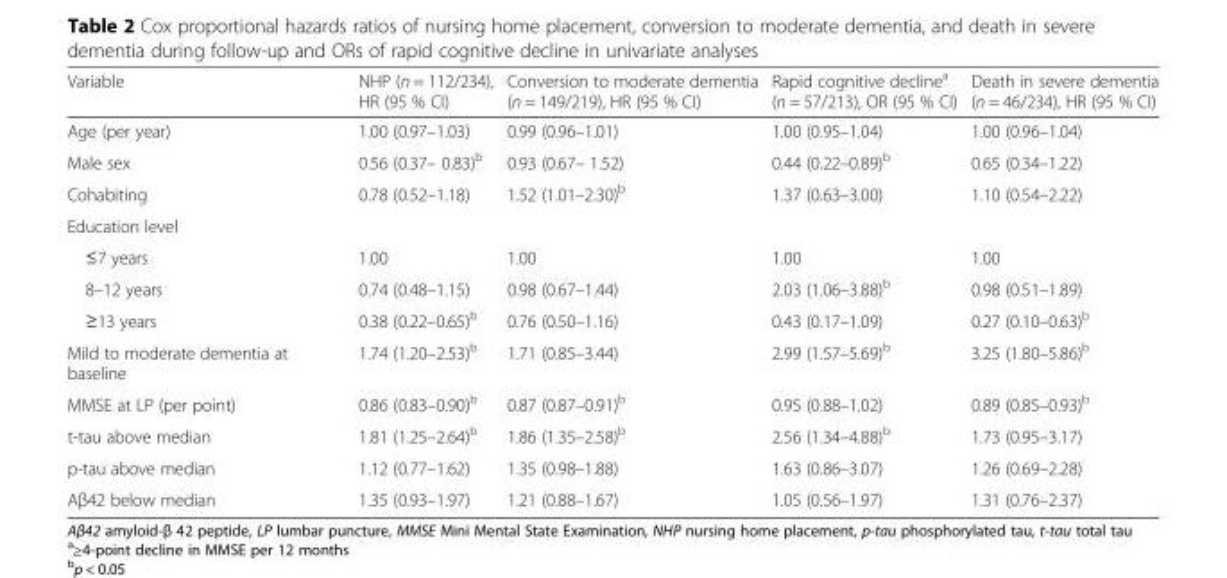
<table><thead><tr><td>Variable</td><td>NHP (n = 112/234), HR (95 % CI)</td><td>Conversion to moderate dementia (n = 149/219), HR (95 % CI)</td><td>Rapid cognitive decline<sup>a</sup> (n = 57/213), OR (95 % CI)</td><td>Death in severe dementia (n = 46/234), HR (95 % CI)</td></tr></thead><tbody><tr><td>Age (per year)</td><td>1.00 (0.97–1.03)</td><td>0.99 (0.96–1.01)</td><td>1.00 (0.95–1.04)</td><td>1.00 (0.96–1.04)</td></tr><tr><td>Male sex</td><td>0.56 (0.37– 0.83)<sup>b</sup></td><td>0.93 (0.67– 1.52)</td><td>0.44 (0.22–0.89)<sup>b</sup></td><td>0.65 (0.34–1.22)</td></tr><tr><td>Cohabiting</td><td>0.78 (0.52–1.18)</td><td>1.52 (1.01–2.30)<sup>b</sup></td><td>1.37 (0.63–3.00)</td><td>1.10 (0.54–2.22)</td></tr><tr><td colspan="5">Education level</td></tr><tr><td>≤7 years</td><td>1.00</td><td>1.00</td><td>1.00</td><td>1.00</td></tr><tr><td>8–12 years</td><td>0.74 (0.48–1.15)</td><td>0.98 (0.67–1.44)</td><td>2.03 (1.06–3.88)<sup>b</sup></td><td>0.98 (0.51–1.89)</td></tr><tr><td>≥13 years</td><td>0.38 (0.22–0.65)<sup>b</sup></td><td>0.76 (0.50–1.16)</td><td>0.43 (0.17–1.09)</td><td>0.27 (0.10–0.63)<sup>b</sup></td></tr><tr><td>Mild to moderate dementia at baseline</td><td>1.74 (1.20–2.53)<sup>b</sup></td><td>1.71 (0.85–3.44)</td><td>2.99 (1.57–5.69)<sup>b</sup></td><td>3.25 (1.80–5.86)<sup>b</sup></td></tr><tr><td>MMSE at LP (per point)</td><td>0.86 (0.83–0.90)<sup>b</sup></td><td>0.87 (0.87–0.91)<sup>b</sup></td><td>0.95 (0.88–1.02)</td><td>0.89 (0.85–0.93)<sup>b</sup></td></tr><tr><td>t-tau above median</td><td>1.81 (1.25–2.64)<sup>b</sup></td><td>1.86 (1.35–2.58)<sup>b</sup></td><td>2.56 (1.34–4.88)<sup>b</sup></td><td>1.73 (0.95–3.17)</td></tr><tr><td>p-tau above median</td><td>1.12 (0.77–1.62)</td><td>1.35 (0.98–1.88)</td><td>1.63 (0.86–3.07)</td><td>1.26 (0.69–2.28)</td></tr><tr><td>Aβ42 below median</td><td>1.35 (0.93–1.97)</td><td>1.21 (0.88–1.67)</td><td>1.05 (0.56–1.97)</td><td>1.31 (0.76–2.37)</td></tr></tbody></table>